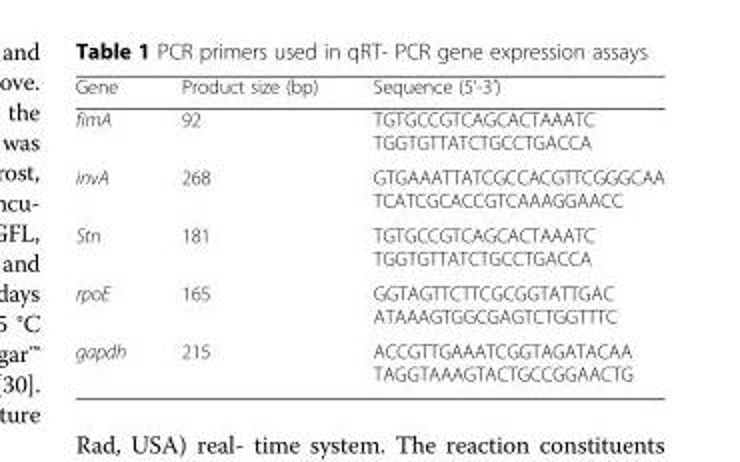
<table><thead><tr><td>Gene</td><td>Product size (bp)</td><td>Sequence (5’-3’)</td></tr></thead><tbody><tr><td>fimA</td><td>92</td><td>TGTGCCGTCAGCACTAAATC TGGTGTTATCTGCCTGACCA</td></tr><tr><td>invA</td><td>268</td><td>GTGAAATTATCGCCACGTTCGGGCAA TCATCGCACCGTCAAAGGAACC</td></tr><tr><td>Stn</td><td>181</td><td>TGTGCCGTCAGCACTAAATC TGGTGTTATCTGCCTGACCA</td></tr><tr><td>rpoE</td><td>165</td><td>GGTAGTTCTTCGCGGTATTGAC ATAAAGTGGCGAGTCTGGTTTC</td></tr><tr><td>gapdh</td><td>215</td><td>ACCGTTGAAATCGGTAGATACAA TAGGTAAAGTACTGCCGGAACTG</td></tr></tbody></table>